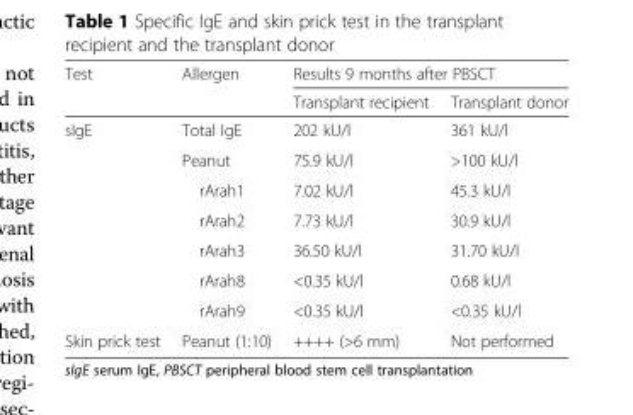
<table><thead><tr><td rowspan="2">Test</td><td rowspan="2">Allergen</td><td colspan="2">Results 9 months after PBSCT</td></tr><tr><td>Transplant recipient</td><td>Transplant donor</td></tr></thead><tbody><tr><td rowspan="7">sIgE</td><td>Total IgE</td><td>202 kU/l</td><td>361 kU/l</td></tr><tr><td>Peanut</td><td>75.9 kU/l</td><td>&gt;100 kU/l</td></tr><tr><td>rArah1</td><td>7.02 kU/l</td><td>45.3 kU/l</td></tr><tr><td>rArah2</td><td>7.73 kU/l</td><td>30.9 kU/l</td></tr><tr><td>rArah3</td><td>36.50 kU/l</td><td>31.70 kU/l</td></tr><tr><td>rArah8</td><td>&lt;0.35 kU/l</td><td>0.68 kU/l</td></tr><tr><td>rArah9</td><td>&lt;0.35 kU/l</td><td>&lt;0.35 kU/l</td></tr><tr><td>Skin prick test</td><td>Peanut (1:10)</td><td>++++ (&gt;6 mm)</td><td>Not performed</td></tr></tbody></table>